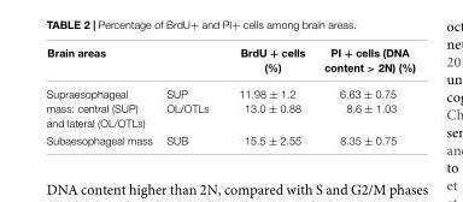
<table><thead><tr><td colspan="2">Brain areas</td><td rowspan="2">BrdU + cells (%) 11.98 ± 1.2 13.0 ± 0.88</td><td rowspan="2">PI + cells (DNA content &gt; 2N) (%) 6.63 ± 0.75 8.6 ± 1.03</td></tr><tr><td>Supraesophageal mass: central (SUP) and lateral (OL/OTLs)</td><td>SUP OL/OTLs</td></tr></thead><tbody><tr><td>Subaesophageal mass</td><td>SUB</td><td>15.5 ± 2.55</td><td>8.35 ± 0.75</td></tr></tbody></table>